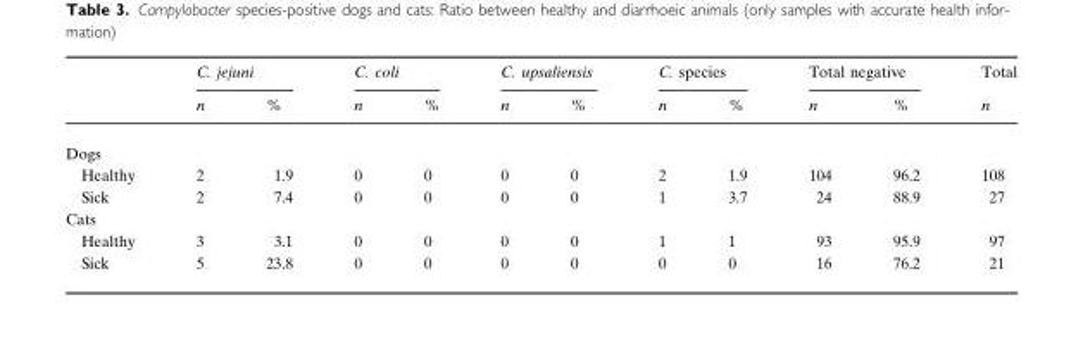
<table><thead><tr><td rowspan="2"></td><td colspan="2">C. jejuni</td><td colspan="2">C. coli</td><td colspan="2">C. upsaliensis</td><td colspan="2">C. species</td><td colspan="2">Total negative</td><td rowspan="2">Total n</td></tr><tr><td>n</td><td>%</td><td>n</td><td>%</td><td>n</td><td>%</td><td>n</td><td>%</td><td>n</td><td>%</td></tr></thead><tbody><tr><td colspan="12">Dogs</td></tr><tr><td>Healthy</td><td>2</td><td>1.9</td><td>0</td><td>0</td><td>0</td><td>0</td><td>2</td><td>1.9</td><td>104</td><td>96.2</td><td>108</td></tr><tr><td>Sick</td><td>2</td><td>7.4</td><td>0</td><td>0</td><td>0</td><td>0</td><td>1</td><td>3.7</td><td>24</td><td>88.9</td><td>27</td></tr><tr><td colspan="12">Cats</td></tr><tr><td>Healthy</td><td>3</td><td>3.1</td><td>0</td><td>0</td><td>0</td><td>0</td><td>1</td><td>1</td><td>93</td><td>95.9</td><td>97</td></tr><tr><td>Sick</td><td>5</td><td>23.8</td><td>0</td><td>0</td><td>0</td><td>0</td><td>0</td><td>0</td><td>16</td><td>76.2</td><td>21</td></tr></tbody></table>